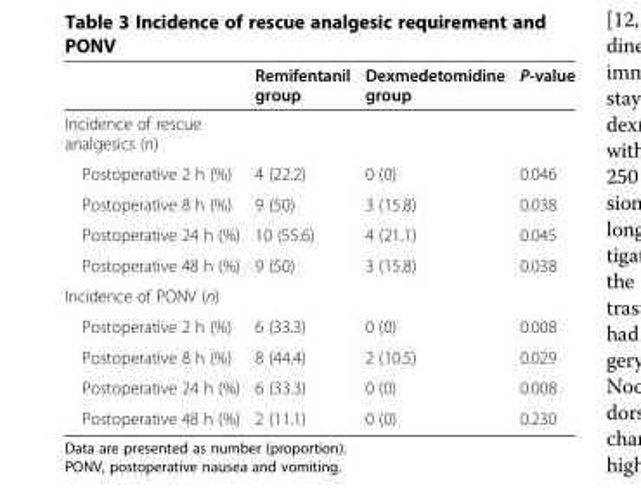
<table><thead><tr><td></td><td>Remifentanil group</td><td>Dexmedetomidine group</td><td>P-value</td></tr></thead><tbody><tr><td colspan="4">Incidence of rescue analgesics (n)</td></tr><tr><td>Postoperative 2 h (%)</td><td>4 (22.2)</td><td>0 (0)</td><td>0.046</td></tr><tr><td>Postoperative 8 h (%)</td><td>9 (50)</td><td>3 (15.8)</td><td>0.038</td></tr><tr><td>Postoperative 24 h (%)</td><td>10 (55.6)</td><td>4 (21.1)</td><td>0.045</td></tr><tr><td>Postoperative 48 h (%)</td><td>9 (50)</td><td>3 (15.8)</td><td>0.038</td></tr><tr><td colspan="4">Incidence of PONV (n)</td></tr><tr><td>Postoperative 2 h (%)</td><td>6 (33.3)</td><td>0 (0)</td><td>0.008</td></tr><tr><td>Postoperative 8 h (%)</td><td>8 (44.4)</td><td>2 (10.5)</td><td>0.029</td></tr><tr><td>Postoperative 24 h (%)</td><td>6 (33.3)</td><td>0 (0)</td><td>0.008</td></tr><tr><td>Postoperative 48 h (%)</td><td>2 (11.1)</td><td>0 (0)</td><td>0.230</td></tr></tbody></table>